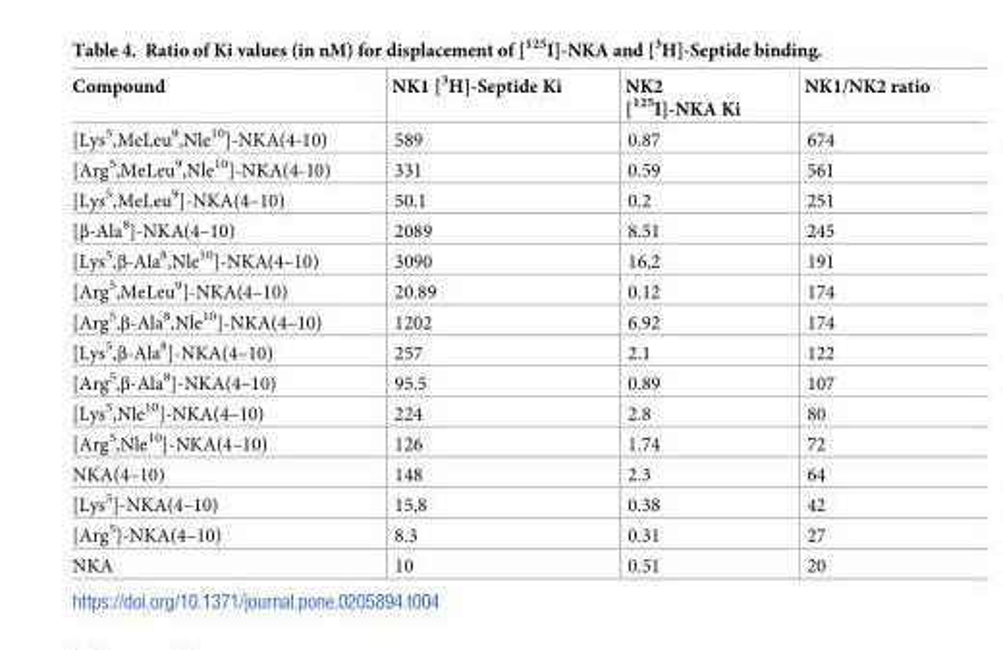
<table><thead><tr><td>Compound</td><td>NK1 [<sup>3</sup>H]-Septide Ki</td><td>NK2 [<sup>125</sup>I]-NKA Ki</td><td>NK1/NK2 ratio</td></tr></thead><tbody><tr><td>[Lys<sup>5</sup>,MeLeu<sup>9</sup>,Nle<sup>10</sup>]-NKA(4-10)</td><td>589</td><td>0.87</td><td>674</td></tr><tr><td>[Arg<sup>5</sup>,MeLeu<sup>9</sup>,Nle<sup>10</sup>]-NKA(4-10)</td><td>331</td><td>0.59</td><td>561</td></tr><tr><td>[Lys<sup>5</sup>,MeLeu<sup>9</sup>]-NKA(4–10)</td><td>50.1</td><td>0.2</td><td>251</td></tr><tr><td>[β-Ala<sup>8</sup>]-NKA(4–10)</td><td>2089</td><td>8.51</td><td>245</td></tr><tr><td>[Lys<sup>5</sup>,β-Ala<sup>8</sup>,Nle<sup>10</sup>]-NKA(4–10)</td><td>3090</td><td>16,2</td><td>191</td></tr><tr><td>[Arg<sup>5</sup>,MeLeu<sup>9</sup>]-NKA(4–10)</td><td>20.89</td><td>0.12</td><td>174</td></tr><tr><td>[Arg<sup>5</sup>,β-Ala<sup>8</sup>,Nle<sup>10</sup>]-NKA(4–10)</td><td>1202</td><td>6.92</td><td>174</td></tr><tr><td>[Lys<sup>5</sup>,β-Ala<sup>8</sup>]-NKA(4–10)</td><td>257</td><td>2.1</td><td>122</td></tr><tr><td>[Arg<sup>5</sup>,β-Ala<sup>8</sup>]-NKA(4–10)</td><td>95.5</td><td>0.89</td><td>107</td></tr><tr><td>[Lys<sup>5</sup>,Nle<sup>10</sup>]-NKA(4–10)</td><td>224</td><td>2.8</td><td>80</td></tr><tr><td>[Arg<sup>5</sup>,Nle<sup>10</sup>]-NKA(4–10)</td><td>126</td><td>1.74</td><td>72</td></tr><tr><td>NKA(4–10)</td><td>148</td><td>2.3</td><td>64</td></tr><tr><td>[Lys<sup>5</sup>]-NKA(4–10)</td><td>15,8</td><td>0.38</td><td>42</td></tr><tr><td>[Arg<sup>5</sup>]-NKA(4–10)</td><td>8.3</td><td>0.31</td><td>27</td></tr><tr><td>NKA</td><td>10</td><td>0.51</td><td>20</td></tr></tbody></table>